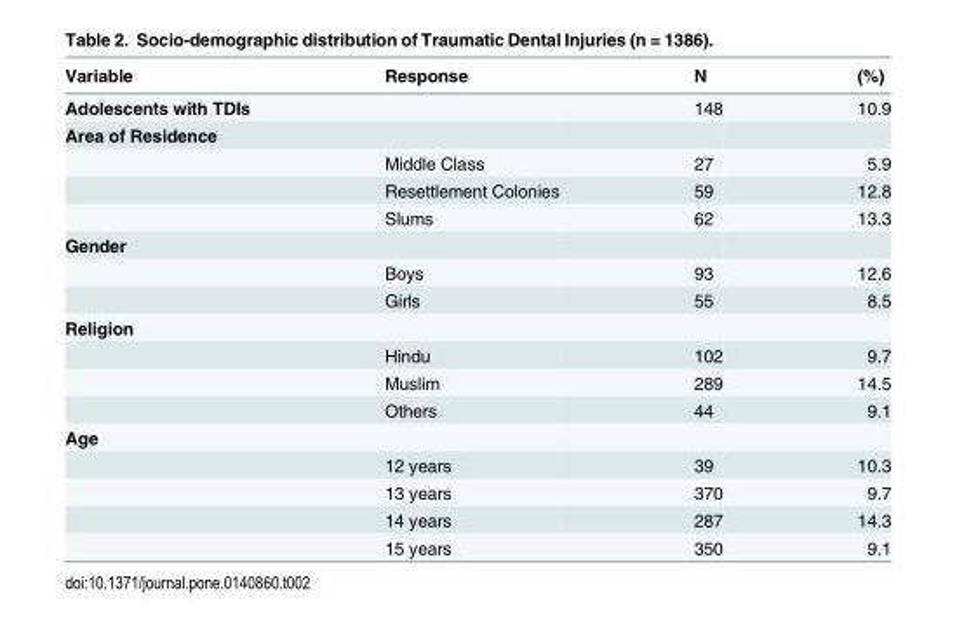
<table><thead><tr><td>Variable</td><td>Response</td><td>N</td><td>(%)</td></tr></thead><tbody><tr><td>Adolescents with TDIs</td><td></td><td>148</td><td>10.9</td></tr><tr><td colspan="4">Area of Residence</td></tr><tr><td></td><td>Middle Class</td><td>27</td><td>5.9</td></tr><tr><td></td><td>Resettlement Colonies</td><td>59</td><td>12.8</td></tr><tr><td></td><td>Slums</td><td>62</td><td>13.3</td></tr><tr><td colspan="4">Gender</td></tr><tr><td></td><td>Boys</td><td>93</td><td>12.6</td></tr><tr><td></td><td>Girls</td><td>55</td><td>8.5</td></tr><tr><td colspan="4">Religion</td></tr><tr><td></td><td>Hindu</td><td>102</td><td>9.7</td></tr><tr><td></td><td>Muslim</td><td>289</td><td>14.5</td></tr><tr><td></td><td>Others</td><td>44</td><td>9.1</td></tr><tr><td colspan="4">Age</td></tr><tr><td></td><td>12 years</td><td>39</td><td>10.3</td></tr><tr><td></td><td>13 years</td><td>370</td><td>9.7</td></tr><tr><td></td><td>14 years</td><td>287</td><td>14.3</td></tr><tr><td></td><td>15 years</td><td>350</td><td>9.1</td></tr></tbody></table>